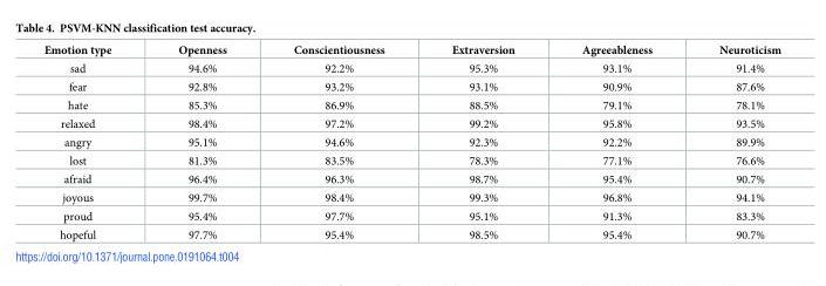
<table><thead><tr><td>Emotion type</td><td>Openness</td><td>Conscientiousness</td><td>Extraversion</td><td>Agreeableness</td><td>Neuroticism</td></tr></thead><tbody><tr><td>sad</td><td>94.6%</td><td>92.2%</td><td>95.3%</td><td>93.1%</td><td>91.4%</td></tr><tr><td>fear</td><td>92.8%</td><td>93.2%</td><td>93.1%</td><td>90.9%</td><td>87.6%</td></tr><tr><td>hate</td><td>85.3%</td><td>86.9%</td><td>88.5%</td><td>79.1%</td><td>78.1%</td></tr><tr><td>relaxed</td><td>98.4%</td><td>97.2%</td><td>99.2%</td><td>95.8%</td><td>93.5%</td></tr><tr><td>angry</td><td>95.1%</td><td>94.6%</td><td>92.3%</td><td>92.2%</td><td>89.9%</td></tr><tr><td>lost</td><td>81.3%</td><td>83.5%</td><td>78.3%</td><td>77.1%</td><td>76.6%</td></tr><tr><td>afraid</td><td>96.4%</td><td>96.3%</td><td>98.7%</td><td>95.4%</td><td>90.7%</td></tr><tr><td>joyous</td><td>99.7%</td><td>98.4%</td><td>99.3%</td><td>96.8%</td><td>94.1%</td></tr><tr><td>proud</td><td>95.4%</td><td>97.7%</td><td>95.1%</td><td>91.3%</td><td>83.3%</td></tr><tr><td>hopeful</td><td>97.7%</td><td>95.4%</td><td>98.5%</td><td>95.4%</td><td>90.7%</td></tr></tbody></table>